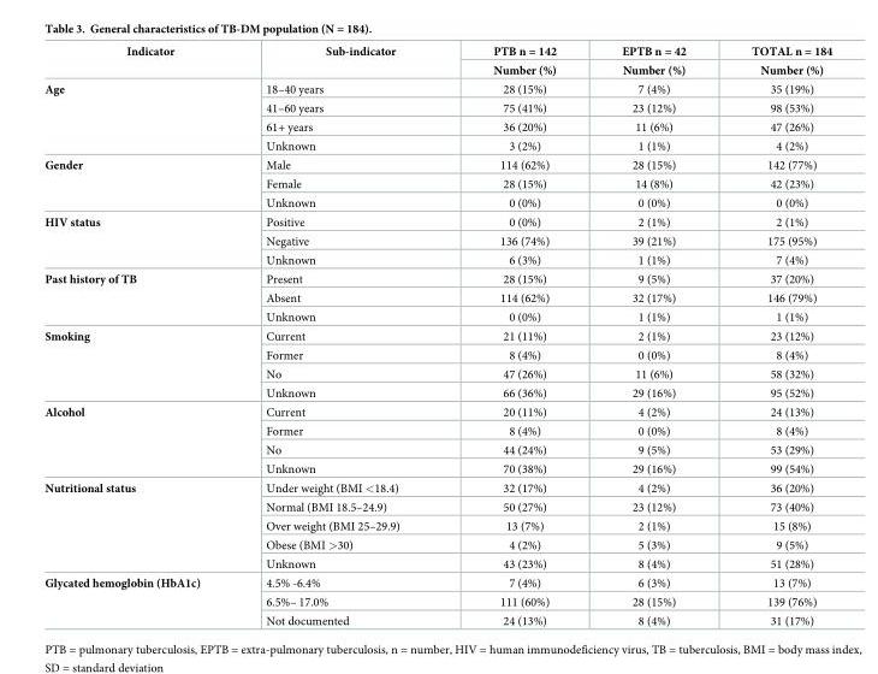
<table><thead><tr><td rowspan="2">Indicator</td><td rowspan="2">Sub-indicator</td><td rowspan="2">PTB n = 142 Number (%)</td><td rowspan="2">EPTB n = 42 Number (%)</td><td rowspan="2">TOTAL n = 184 Number (%)</td></tr><tr></tr></thead><tbody><tr><td rowspan="4">Age</td><td>18–40 years</td><td>28 (15%)</td><td>7 (4%)</td><td>35 (19%)</td></tr><tr><td>41–60 years</td><td>75 (41%)</td><td>23 (12%)</td><td>98 (53%)</td></tr><tr><td>61+ years</td><td>36 (20%)</td><td>11 (6%)</td><td>47 (26%)</td></tr><tr><td>Unknown</td><td>3 (2%)</td><td>1 (1%)</td><td>4 (2%)</td></tr><tr><td rowspan="3">Gender</td><td>Male</td><td>114 (62%)</td><td>28 (15%)</td><td>142 (77%)</td></tr><tr><td>Female</td><td>28 (15%)</td><td>14 (8%)</td><td>42 (23%)</td></tr><tr><td>Unknown</td><td>0 (0%)</td><td>0 (0%)</td><td>0 (0%)</td></tr><tr><td rowspan="3">HIV status</td><td>Positive</td><td>0 (0%)</td><td>2 (1%)</td><td>2 (1%)</td></tr><tr><td>Negative</td><td>136 (74%)</td><td>39 (21%)</td><td>175 (95%)</td></tr><tr><td>Unknown</td><td>6 (3%)</td><td>1 (1%)</td><td>7 (4%)</td></tr><tr><td rowspan="3">Past history of TB</td><td>Present</td><td>28 (15%)</td><td>9 (5%)</td><td>37 (20%)</td></tr><tr><td>Absent</td><td>114 (62%)</td><td>32 (17%)</td><td>146 (79%)</td></tr><tr><td>Unknown</td><td>0 (0%)</td><td>1 (1%)</td><td>1 (1%)</td></tr><tr><td rowspan="4">Smoking</td><td>Current</td><td>21 (11%)</td><td>2 (1%)</td><td>23 (12%)</td></tr><tr><td>Former</td><td>8 (4%)</td><td>0 (0%)</td><td>8 (4%)</td></tr><tr><td>No</td><td>47 (26%)</td><td>11 (6%)</td><td>58 (32%)</td></tr><tr><td>Unknown</td><td>66 (36%)</td><td>29 (16%)</td><td>95 (52%)</td></tr><tr><td rowspan="4">Alcohol</td><td>Current</td><td>20 (11%)</td><td>4 (2%)</td><td>24 (13%)</td></tr><tr><td>Former</td><td>8 (4%)</td><td>0 (0%)</td><td>8 (4%)</td></tr><tr><td>No</td><td>44 (24%)</td><td>9 (5%)</td><td>53 (29%)</td></tr><tr><td>Unknown</td><td>70 (38%)</td><td>29 (16%)</td><td>99 (54%)</td></tr><tr><td rowspan="5">Nutritional status</td><td>Under weight (BMI &lt;18.4)</td><td>32 (17%)</td><td>4 (2%)</td><td>36 (20%)</td></tr><tr><td>Normal (BMI 18.5–24.9)</td><td>50 (27%)</td><td>23 (12%)</td><td>73 (40%)</td></tr><tr><td>Over weight (BMI 25–29.9)</td><td>13 (7%)</td><td>2 (1%)</td><td>15 (8%)</td></tr><tr><td>Obese (BMI &gt;30)</td><td>4 (2%)</td><td>5 (3%)</td><td>9 (5%)</td></tr><tr><td>Unknown</td><td>43 (23%)</td><td>8 (4%)</td><td>51 (28%)</td></tr><tr><td rowspan="3">Glycated hemoglobin (HbA1c)</td><td>4.5% -6.4%</td><td>7 (4%)</td><td>6 (3%)</td><td>13 (7%)</td></tr><tr><td>6.5%– 17.0%</td><td>111 (60%)</td><td>28 (15%)</td><td>139 (76%)</td></tr><tr><td>Not documented</td><td>24 (13%)</td><td>8 (4%)</td><td>31 (17%)</td></tr></tbody></table>